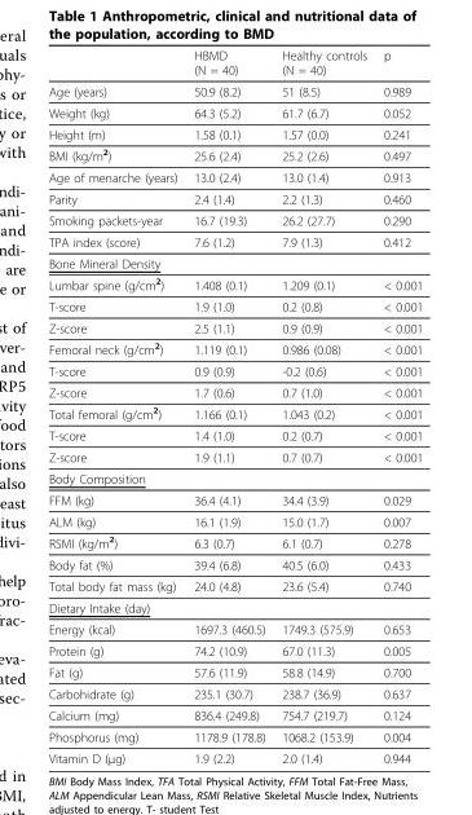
<table><thead><tr><td></td><td>HBMD (N = 40)</td><td>Healthy controls (N = 40)</td><td>p</td></tr></thead><tbody><tr><td>Age (years)</td><td>50.9 (8.2)</td><td>51 (8.5)</td><td>0.989</td></tr><tr><td>Weight (kg)</td><td>64.3 (5.2)</td><td>61.7 (6.7)</td><td>0.052</td></tr><tr><td>Height (m)</td><td>1.58 (0.1)</td><td>1.57 (0.0)</td><td>0.241</td></tr><tr><td>BMI (kg/m<sup>2</sup>)</td><td>25.6 (2.4)</td><td>25.2 (2.6)</td><td>0.497</td></tr><tr><td>Age of menarche (years)</td><td>13.0 (2.4)</td><td>13.0 (1.4)</td><td>0.913</td></tr><tr><td>Parity</td><td>2.4 (1.4)</td><td>2.2 (1.3)</td><td>0.460</td></tr><tr><td>Smoking packets-year</td><td>16.7 (19.3)</td><td>26.2 (27.7)</td><td>0.290</td></tr><tr><td>TPA index (score)</td><td>7.6 (1.2)</td><td>7.9 (1.3)</td><td>0.412</td></tr><tr><td colspan="4">Bone Mineral Density</td></tr><tr><td>Lumbar spine (g/cm<sup>2</sup>)</td><td>1.408 (0.1)</td><td>1.209 (0.1)</td><td>&lt; 0.001</td></tr><tr><td>T-score</td><td>1.9 (1.0)</td><td>0.2 (0.8)</td><td>&lt; 0.001</td></tr><tr><td>Z-score</td><td>2.5 (1.1)</td><td>0.9 (0.9)</td><td>&lt; 0.001</td></tr><tr><td>Femoral neck (g/cm<sup>2</sup>)</td><td>1.119 (0.1)</td><td>0.986 (0.08)</td><td>&lt; 0.001</td></tr><tr><td>T-score</td><td>0.9 (0.9)</td><td>-0.2 (0.6)</td><td>&lt; 0.001</td></tr><tr><td>Z-score</td><td>1.7 (0.6)</td><td>0.7 (1.0)</td><td>&lt; 0.001</td></tr><tr><td>Total femoral (g/cm<sup>2</sup>)</td><td>1.166 (0.1)</td><td>1.043 (0.2)</td><td>&lt; 0.001</td></tr><tr><td>T-score</td><td>1.4 (1.0)</td><td>0.2 (0.7)</td><td>&lt; 0.001</td></tr><tr><td>Z-score</td><td>1.9 (1.1)</td><td>0.7 (0.7)</td><td>&lt; 0.001</td></tr><tr><td colspan="4">Body Composition</td></tr><tr><td>FFM (kg)</td><td>36.4 (4.1)</td><td>34.4 (3.9)</td><td>0.029</td></tr><tr><td>ALM (kg)</td><td>16.1 (1.9)</td><td>15.0 (1.7)</td><td>0.007</td></tr><tr><td>RSMI (kg/m<sup>2</sup>)</td><td>6.3 (0.7)</td><td>6.1 (0.7)</td><td>0.278</td></tr><tr><td>Body fat (%)</td><td>39.4 (6.8)</td><td>40.5 (6.0)</td><td>0.433</td></tr><tr><td>Total body fat mass (kg)</td><td>24.0 (4.8)</td><td>23.6 (5.4)</td><td>0.740</td></tr><tr><td colspan="4">Dietary Intake (day)</td></tr><tr><td>Energy (kcal)</td><td>1697.3 (460.5)</td><td>1749.3 (575.9)</td><td>0.653</td></tr><tr><td>Protein (g)</td><td>74.2 (10.9)</td><td>67.0 (11.3)</td><td>0.005</td></tr><tr><td>Fat (g)</td><td>57.6 (11.9)</td><td>58.8 (14.9)</td><td>0.700</td></tr><tr><td>Carbohidrate (g)</td><td>235.1 (30.7)</td><td>238.7 (36.9)</td><td>0.637</td></tr><tr><td>Calcium (mg)</td><td>836.4 (249.8)</td><td>754.7 (219.7)</td><td>0.124</td></tr><tr><td>Phosphorus (mg)</td><td>1178.9 (178.8)</td><td>1068.2 (153.9)</td><td>0.004</td></tr><tr><td>Vitamin D (μg)</td><td>1.9 (2.2)</td><td>2.0 (1.4)</td><td>0.944</td></tr></tbody></table>